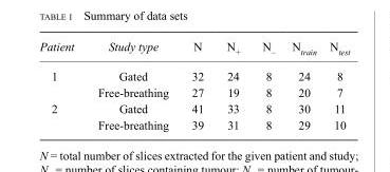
<table><thead><tr><td>Patient</td><td>Study type</td><td>N</td><td>N<sub>+</sub></td><td>N<sub>–</sub></td><td>N<sub>train</sub></td><td>N<sub>test</sub></td></tr></thead><tbody><tr><td rowspan="2">1</td><td>Gated</td><td>32</td><td>24</td><td>8</td><td>24</td><td>8</td></tr><tr><td>Free-breathing</td><td>27</td><td>19</td><td>8</td><td>20</td><td>7</td></tr><tr><td rowspan="2">2</td><td>Gated</td><td>41</td><td>33</td><td>8</td><td>30</td><td>11</td></tr><tr><td>Free-breathing</td><td>39</td><td>31</td><td>8</td><td>29</td><td>10</td></tr></tbody></table>